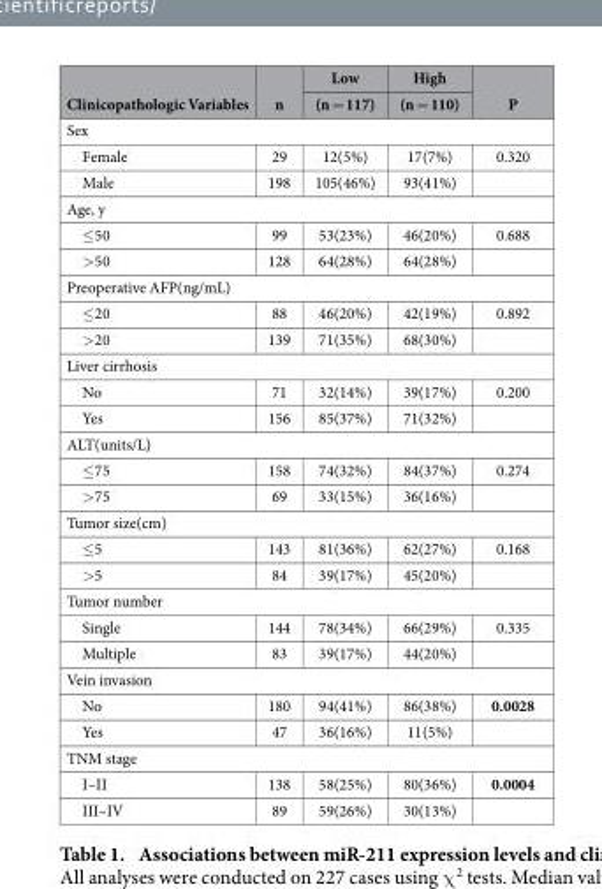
<table><thead><tr><td rowspan="2">Clinicopathologic Variables</td><td rowspan="2">n</td><td rowspan="2">Low (n = 117)</td><td rowspan="2">High (n = 110)</td><td rowspan="2">P</td></tr><tr></tr></thead><tbody><tr><td colspan="5">Sex</td></tr><tr><td>Female</td><td>29</td><td>12(5%)</td><td>17(7%)</td><td>0.320</td></tr><tr><td>Male</td><td>198</td><td>105(46%)</td><td>93(41%)</td><td></td></tr><tr><td colspan="5">Age, y</td></tr><tr><td>≤ 50</td><td>99</td><td>53(23%)</td><td>46(20%)</td><td>0.688</td></tr><tr><td>&gt; 50</td><td>128</td><td>64(28%)</td><td>64(28%)</td><td></td></tr><tr><td colspan="5">Preoperative AFP(ng/mL)</td></tr><tr><td>≤ 20</td><td>88</td><td>46(20%)</td><td>42(19%)</td><td>0.892</td></tr><tr><td>&gt; 20</td><td>139</td><td>71(35%)</td><td>68(30%)</td><td></td></tr><tr><td colspan="5">Liver cirrhosis</td></tr><tr><td>No</td><td>71</td><td>32(14%)</td><td>39(17%)</td><td>0.200</td></tr><tr><td>Yes</td><td>156</td><td>85(37%)</td><td>71(32%)</td><td></td></tr><tr><td colspan="5">ALT(units/L)</td></tr><tr><td>≤ 75</td><td>158</td><td>74(32%)</td><td>84(37%)</td><td>0.274</td></tr><tr><td>&gt; 75</td><td>69</td><td>33(15%)</td><td>36(16%)</td><td></td></tr><tr><td colspan="5">Tumor size(cm)</td></tr><tr><td>≤ 5</td><td>143</td><td>81(36%)</td><td>62(27%)</td><td>0.168</td></tr><tr><td>&gt; 5</td><td>84</td><td>39(17%)</td><td>45(20%)</td><td></td></tr><tr><td colspan="5">Tumor number</td></tr><tr><td>Single</td><td>144</td><td>78(34%)</td><td>66(29%)</td><td>0.335</td></tr><tr><td>Multiple</td><td>83</td><td>39(17%)</td><td>44(20%)</td><td></td></tr><tr><td colspan="5">Vein invasion</td></tr><tr><td>No</td><td>180</td><td>94(41%)</td><td>86(38%)</td><td>0.0028</td></tr><tr><td>Yes</td><td>47</td><td>36(16%)</td><td>11(5%)</td><td></td></tr><tr><td colspan="5">TNM stage</td></tr><tr><td>I–II</td><td>138</td><td>58(25%)</td><td>80(36%)</td><td>0.0004</td></tr><tr><td>III–IV</td><td>89</td><td>59(26%)</td><td>30(13%)</td><td></td></tr></tbody></table>